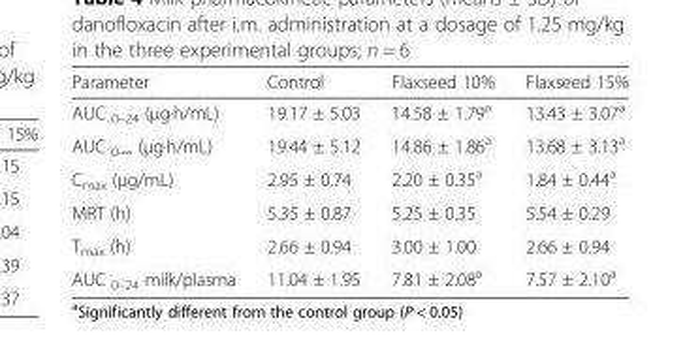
<table><thead><tr><td>Parameter</td><td>Control</td><td>Flaxseed 10%</td><td>Flaxseed 15%</td></tr></thead><tbody><tr><td>AUC <sub>0–24</sub> (μg·h/mL)</td><td>19.17 ± 5.03</td><td>14.58 ± 1.79<sup>a</sup></td><td>13.43 ± 3.07<sup>a</sup></td></tr><tr><td>AUC <sub>0-∞</sub> (μg·h/mL)</td><td>19.44 ± 5.12</td><td>14.86 ± 1.86<sup>a</sup></td><td>13.68 ± 3.13<sup>a</sup></td></tr><tr><td>C<sub>max</sub> (μg/mL)</td><td>2.95 ± 0.74</td><td>2.20 ± 0.35<sup>a</sup></td><td>1.84 ± 0.44<sup>a</sup></td></tr><tr><td>MRT (h)</td><td>5.35 ± 0.87</td><td>5.25 ± 0.35</td><td>5.54 ± 0.29</td></tr><tr><td>T<sub>max</sub> (h)</td><td>2.66 ± 0.94</td><td>3.00 ± 1.00</td><td>2.66 ± 0.94</td></tr><tr><td>AUC <sub>0–24</sub> milk/plasma</td><td>11.04 ± 1.95</td><td>7.81 ± 2.08<sup>a</sup></td><td>7.57 ± 2.10<sup>a</sup></td></tr></tbody></table>